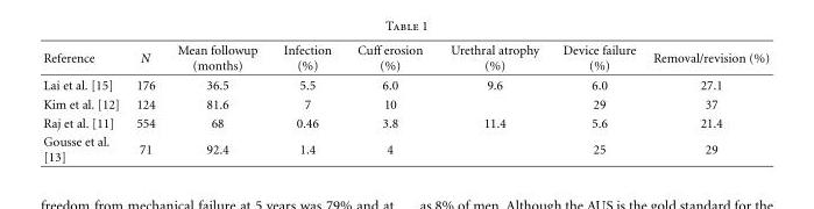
<table><thead><tr><td>Reference</td><td>N</td><td>Mean followup (months)</td><td>Infection (%)</td><td>Cuff erosion (%)</td><td>Urethral atrophy (%)</td><td>Device failure (%)</td><td>Removal/revision (%)</td></tr></thead><tbody><tr><td>Lai et al. [15]</td><td>176</td><td>36.5</td><td>5.5</td><td>6.0</td><td>9.6</td><td>6.0</td><td>27.1</td></tr><tr><td>Kim et al. [12]</td><td>124</td><td>81.6</td><td>7</td><td>10</td><td></td><td>29</td><td>37</td></tr><tr><td>Raj et al. [11]</td><td>554</td><td>68</td><td>0.46</td><td>3.8</td><td>11.4</td><td>5.6</td><td>21.4</td></tr><tr><td>Gousse et al. [13]</td><td>71</td><td>92.4</td><td>1.4</td><td>4</td><td></td><td>25</td><td>29</td></tr></tbody></table>